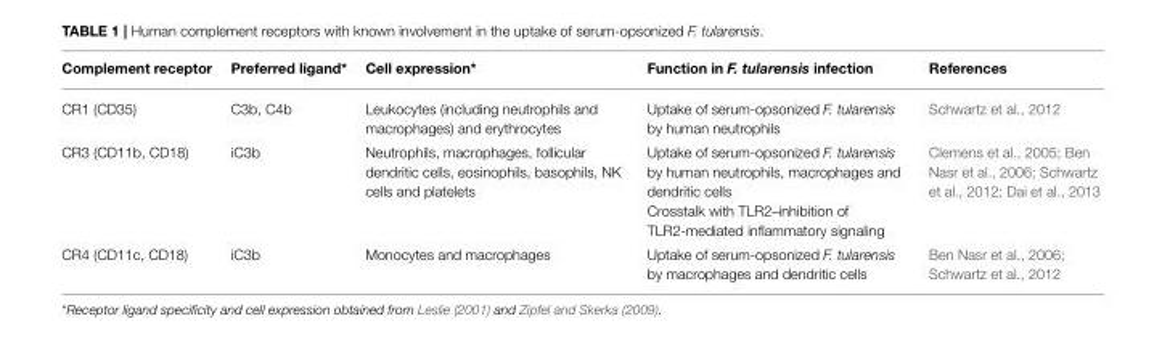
<table><thead><tr><td>Complement receptor</td><td>Preferred ligand*</td><td>Cell expression*</td><td>Function in F. tularensis infection</td><td>References</td></tr></thead><tbody><tr><td>CR1 (CD35)</td><td>C3b, C4b</td><td>Leukocytes (including neutrophils and macrophages) and erythrocytes</td><td>Uptake of serum-opsonized F. tularensis by human neutrophils</td><td>Schwartz et al., 2012</td></tr><tr><td>CR3 (CD11b, CD18)</td><td>iC3b</td><td>Neutrophils, macrophages, follicular dendritic cells, eosinophils, basophils, NK cells and platelets</td><td>Uptake of serum-opsonized F. tularensis by human neutrophils, macrophages and dendritic cells Crosstalk with TLR2–inhibition of TLR2-mediated inflammatory signaling</td><td>Clemens et al., 2005; Ben Nasr et al., 2006; Schwartz et al., 2012; Dai et al., 2013</td></tr><tr><td>CR4 (CD11c, CD18)</td><td>iC3b</td><td>Monocytes and macrophages</td><td>Uptake of serum-opsonized F. tularensis by macrophages and dendritic cells</td><td>Ben Nasr et al., 2006; Schwartz et al., 2012</td></tr></tbody></table>